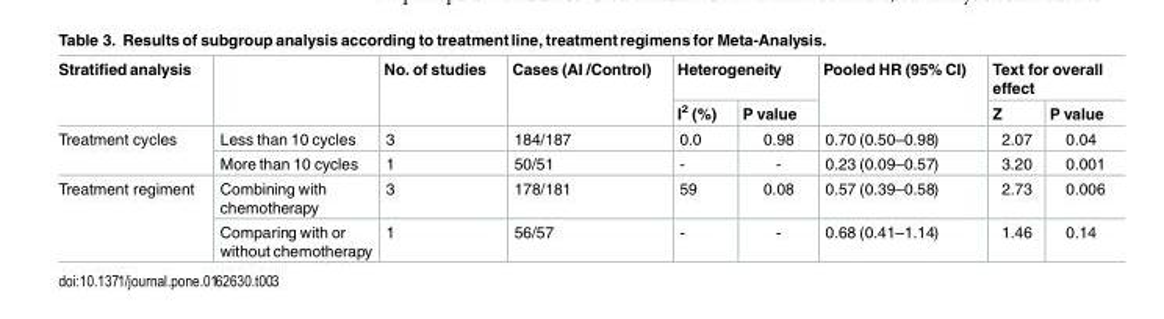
<table><thead><tr><td rowspan="2">Stratified analysis</td><td rowspan="2"></td><td rowspan="2">No. of studies</td><td rowspan="2">Cases (AI /Control)</td><td colspan="2">Heterogeneity</td><td rowspan="2">Pooled HR (95% CI)</td><td colspan="2">Text for overall effect</td></tr><tr><td>I<sup>2</sup> (%)</td><td>P value</td><td>Z</td><td>P value</td></tr></thead><tbody><tr><td rowspan="2">Treatment cycles</td><td>Less than 10 cycles</td><td>3</td><td>184/187</td><td>0.0</td><td>0.98</td><td>0.70 (0.50–0.98)</td><td>2.07</td><td>0.04</td></tr><tr><td>More than 10 cycles</td><td>1</td><td>50/51</td><td>-</td><td>-</td><td>0.23 (0.09–0.57)</td><td>3.20</td><td>0.001</td></tr><tr><td rowspan="2">Treatment regiment</td><td>Combining with chemotherapy</td><td>3</td><td>178/181</td><td>59</td><td>0.08</td><td>0.57 (0.39–0.58)</td><td>2.73</td><td>0.006</td></tr><tr><td>Comparing with or without chemotherapy</td><td>1</td><td>56/57</td><td>-</td><td>-</td><td>0.68 (0.41–1.14)</td><td>1.46</td><td>0.14</td></tr></tbody></table>